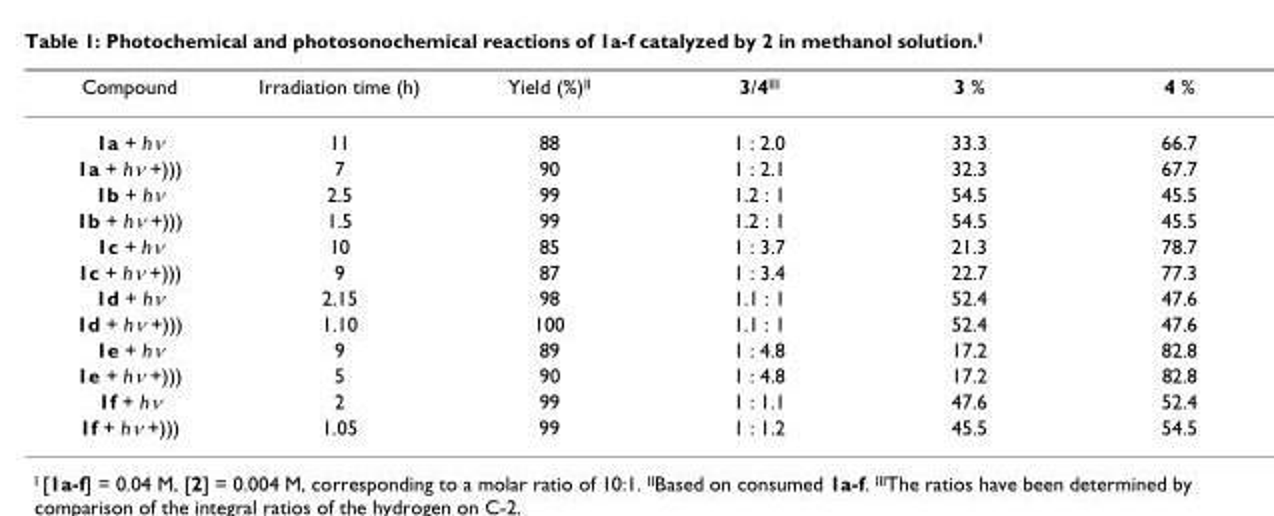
<table><thead><tr><td>Compound</td><td>Irradiation time (h)</td><td>Yield (%)<sup>II</sup></td><td>3/4<sup>III</sup></td><td>3 %</td><td>4 %</td></tr></thead><tbody><tr><td>1a + hν</td><td>11</td><td>88</td><td>1 : 2.0</td><td>33.3</td><td>66.7</td></tr><tr><td>1a + hν +)))</td><td>7</td><td>90</td><td>1 : 2.1</td><td>32.3</td><td>67.7</td></tr><tr><td>1b + hν</td><td>2.5</td><td>99</td><td>1.2 : 1</td><td>54.5</td><td>45.5</td></tr><tr><td>1b + hν +)))</td><td>1.5</td><td>99</td><td>1.2 : 1</td><td>54.5</td><td>45.5</td></tr><tr><td>1c + hν</td><td>10</td><td>85</td><td>1 : 3.7</td><td>21.3</td><td>78.7</td></tr><tr><td>1c + hν +)))</td><td>9</td><td>87</td><td>1 : 3.4</td><td>22.7</td><td>77.3</td></tr><tr><td>1d + hν</td><td>2.15</td><td>98</td><td>1.1 : 1</td><td>52.4</td><td>47.6</td></tr><tr><td>1d + hν +)))</td><td>1.10</td><td>100</td><td>1.1 : 1</td><td>52.4</td><td>47.6</td></tr><tr><td>1e + hν</td><td>9</td><td>89</td><td>1 : 4.8</td><td>17.2</td><td>82.8</td></tr><tr><td>1e + hν +)))</td><td>5</td><td>90</td><td>1 : 4.8</td><td>17.2</td><td>82.8</td></tr><tr><td>1f + hν</td><td>2</td><td>99</td><td>1 : 1.1</td><td>47.6</td><td>52.4</td></tr><tr><td>1f + hν +)))</td><td>1.05</td><td>99</td><td>1 : 1.2</td><td>45.5</td><td>54.5</td></tr></tbody></table>